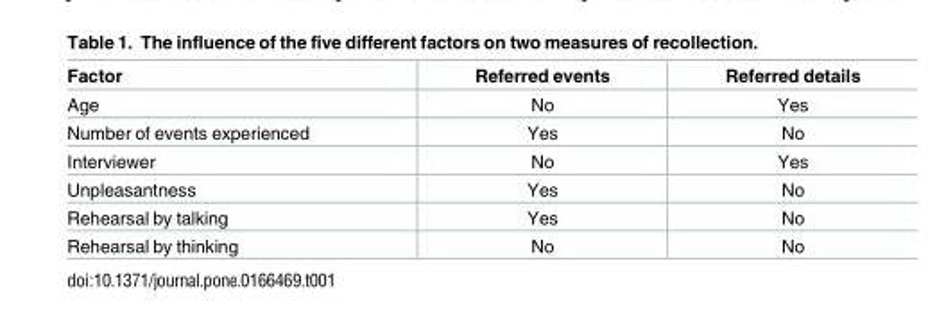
<table><thead><tr><td>Factor</td><td>Referred events</td><td>Referred details</td></tr></thead><tbody><tr><td>Age</td><td>No</td><td>Yes</td></tr><tr><td>Number of events experienced</td><td>Yes</td><td>No</td></tr><tr><td>Interviewer</td><td>No</td><td>Yes</td></tr><tr><td>Unpleasantness</td><td>Yes</td><td>No</td></tr><tr><td>Rehearsal by talking</td><td>Yes</td><td>No</td></tr><tr><td>Rehearsal by thinking</td><td>No</td><td>No</td></tr></tbody></table>